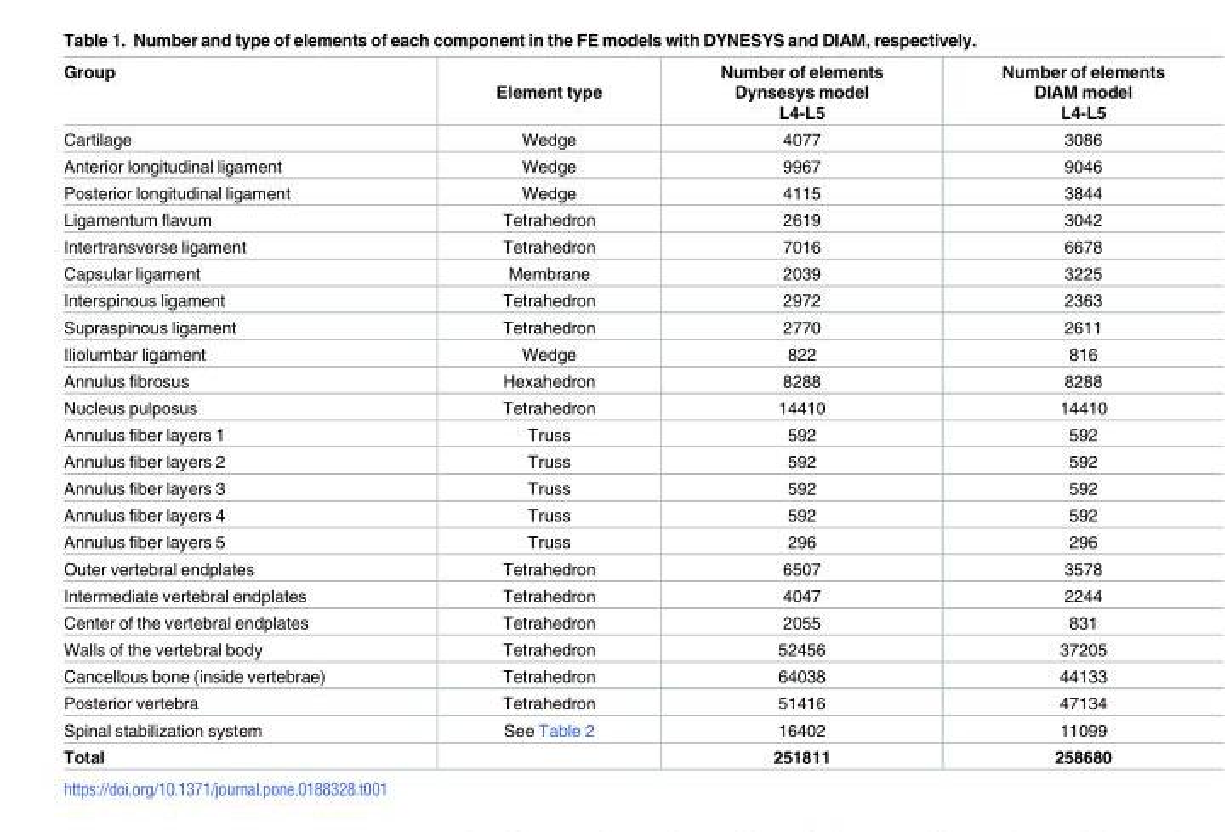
<table><thead><tr><td>Group</td><td>Element type</td><td>Number of elements Dynsesys model L4-L5</td><td>Number of elements DIAM model L4-L5</td></tr></thead><tbody><tr><td>Cartilage</td><td>Wedge</td><td>4077</td><td>3086</td></tr><tr><td>Anterior longitudinal ligament</td><td>Wedge</td><td>9967</td><td>9046</td></tr><tr><td>Posterior longitudinal ligament</td><td>Wedge</td><td>4115</td><td>3844</td></tr><tr><td>Ligamentum flavum</td><td>Tetrahedron</td><td>2619</td><td>3042</td></tr><tr><td>Intertransverse ligament</td><td>Tetrahedron</td><td>7016</td><td>6678</td></tr><tr><td>Capsular ligament</td><td>Membrane</td><td>2039</td><td>3225</td></tr><tr><td>Interspinous ligament</td><td>Tetrahedron</td><td>2972</td><td>2363</td></tr><tr><td>Supraspinous ligament</td><td>Tetrahedron</td><td>2770</td><td>2611</td></tr><tr><td>Iliolumbar ligament</td><td>Wedge</td><td>822</td><td>816</td></tr><tr><td>Annulus fibrosus</td><td>Hexahedron</td><td>8288</td><td>8288</td></tr><tr><td>Nucleus pulposus</td><td>Tetrahedron</td><td>14410</td><td>14410</td></tr><tr><td>Annulus fiber layers 1</td><td>Truss</td><td>592</td><td>592</td></tr><tr><td>Annulus fiber layers 2</td><td>Truss</td><td>592</td><td>592</td></tr><tr><td>Annulus fiber layers 3</td><td>Truss</td><td>592</td><td>592</td></tr><tr><td>Annulus fiber layers 4</td><td>Truss</td><td>592</td><td>592</td></tr><tr><td>Annulus fiber layers 5</td><td>Truss</td><td>296</td><td>296</td></tr><tr><td>Outer vertebral endplates</td><td>Tetrahedron</td><td>6507</td><td>3578</td></tr><tr><td>Intermediate vertebral endplates</td><td>Tetrahedron</td><td>4047</td><td>2244</td></tr><tr><td>Center of the vertebral endplates</td><td>Tetrahedron</td><td>2055</td><td>831</td></tr><tr><td>Walls of the vertebral body</td><td>Tetrahedron</td><td>52456</td><td>37205</td></tr><tr><td>Cancellous bone (inside vertebrae)</td><td>Tetrahedron</td><td>64038</td><td>44133</td></tr><tr><td>Posterior vertebra</td><td>Tetrahedron</td><td>51416</td><td>47134</td></tr><tr><td>Spinal stabilization system</td><td>See Table 2</td><td>16402</td><td>11099</td></tr><tr><td>Total</td><td></td><td>251811</td><td>258680</td></tr></tbody></table>